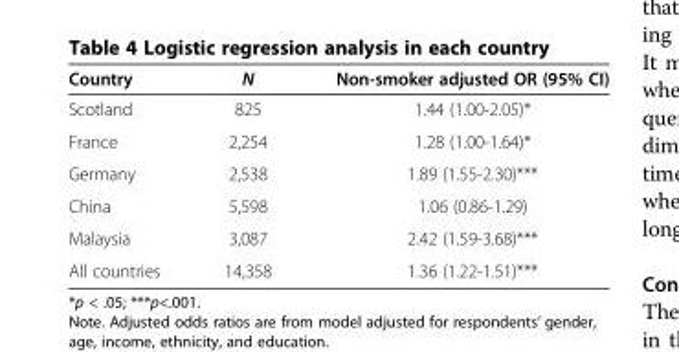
<table><thead><tr><td>Country</td><td>N</td><td>Non-smoker adjusted OR (95% CI)</td></tr></thead><tbody><tr><td>Scotland</td><td>825</td><td>1.44 (1.00-2.05)*</td></tr><tr><td>France</td><td>2,254</td><td>1.28 (1.00-1.64)*</td></tr><tr><td>Germany</td><td>2,538</td><td>1.89 (1.55-2.30)***</td></tr><tr><td>China</td><td>5,598</td><td>1.06 (0.86-1.29)</td></tr><tr><td>Malaysia</td><td>3,087</td><td>2.42 (1.59-3.68)***</td></tr><tr><td>All countries</td><td>14,358</td><td>1.36 (1.22-1.51)***</td></tr></tbody></table>